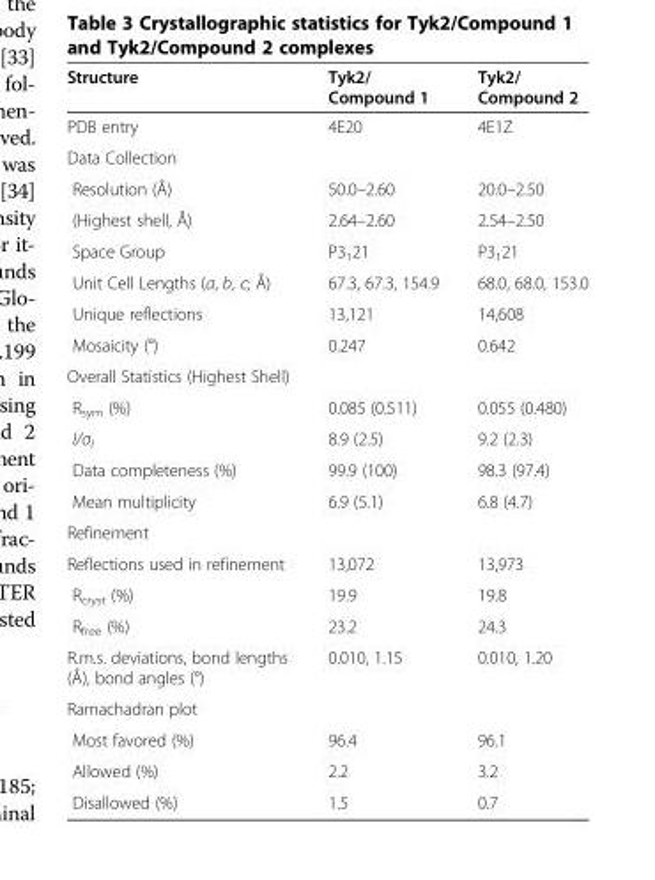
<table><thead><tr><td>Structure</td><td>Tyk2/ Compound 1</td><td>Tyk2/ Compound 2</td></tr></thead><tbody><tr><td>PDB entry</td><td>4E20</td><td>4E1Z</td></tr><tr><td colspan="3">Data Collection</td></tr><tr><td>Resolution (Å)</td><td>50.0–2.60</td><td>20.0–2.50</td></tr><tr><td>(Highest shell, Å)</td><td>2.64–2.60</td><td>2.54–2.50</td></tr><tr><td>Space Group</td><td>P3<sub>1</sub>21</td><td>P3<sub>1</sub>21</td></tr><tr><td>Unit Cell Lengths (a, b, c; Å)</td><td>67.3, 67.3, 154.9</td><td>68.0, 68.0, 153.0</td></tr><tr><td>Unique reflections</td><td>13,121</td><td>14,608</td></tr><tr><td>Mosaicity (°)</td><td>0.247</td><td>0.642</td></tr><tr><td colspan="3">Overall Statistics (Highest Shell)</td></tr><tr><td>R<sub>sym</sub> (%)</td><td>0.085 (0.511)</td><td>0.055 (0.480)</td></tr><tr><td>I/σ<sub>I</sub></td><td>8.9 (2.5)</td><td>9.2 (2.3)</td></tr><tr><td>Data completeness (%)</td><td>99.9 (100)</td><td>98.3 (97.4)</td></tr><tr><td>Mean multiplicity</td><td>6.9 (5.1)</td><td>6.8 (4.7)</td></tr><tr><td colspan="3">Refinement</td></tr><tr><td>Reflections used in refinement</td><td>13,072</td><td>13,973</td></tr><tr><td>R<sub>cryst</sub> (%)</td><td>19.9</td><td>19.8</td></tr><tr><td>R<sub>free</sub> (%)</td><td>23.2</td><td>24.3</td></tr><tr><td>R.m.s. deviations, bond lengths (Å), bond angles (°)</td><td>0.010, 1.15</td><td>0.010, 1.20</td></tr><tr><td colspan="3">Ramachadran plot</td></tr><tr><td>Most favored (%)</td><td>96.4</td><td>96.1</td></tr><tr><td>Allowed (%)</td><td>2.2</td><td>3.2</td></tr><tr><td>Disallowed (%)</td><td>1.5</td><td>0.7</td></tr></tbody></table>